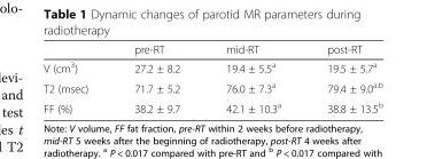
<table><thead><tr><td></td><td>pre-RT</td><td>mid-RT</td><td>post-RT</td></tr></thead><tbody><tr><td>V (cm<sup>3</sup>)</td><td>27.2 ± 8.2</td><td>19.4 ± 5.5<sup>a</sup></td><td>19.5 ± 5.7<sup>a</sup></td></tr><tr><td>T2 (msec)</td><td>71.7 ± 5.2</td><td>76.0 ± 7.3<sup>a</sup></td><td>79.4 ± 9.0<sup>a,b</sup></td></tr><tr><td>FF (%)</td><td>38.2 ± 9.7</td><td>42.1 ± 10.3<sup>a</sup></td><td>38.8 ± 13.5<sup>b</sup></td></tr></tbody></table>